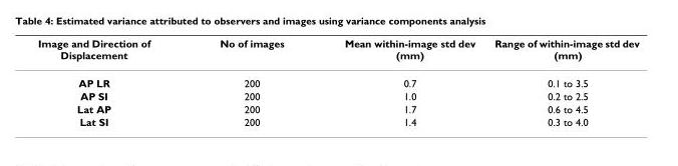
<table><thead><tr><td>Image and Direction of Displacement</td><td>No of images</td><td>Mean within-image std dev (mm)</td><td>Range of within-image std dev (mm)</td></tr></thead><tbody><tr><td>AP LR</td><td>200</td><td>0.7</td><td>0.1 to 3.5</td></tr><tr><td>AP SI</td><td>200</td><td>1.0</td><td>0.2 to 2.5</td></tr><tr><td>Lat AP</td><td>200</td><td>1.7</td><td>0.6 to 4.5</td></tr><tr><td>Lat SI</td><td>200</td><td>1.4</td><td>0.3 to 4.0</td></tr></tbody></table>